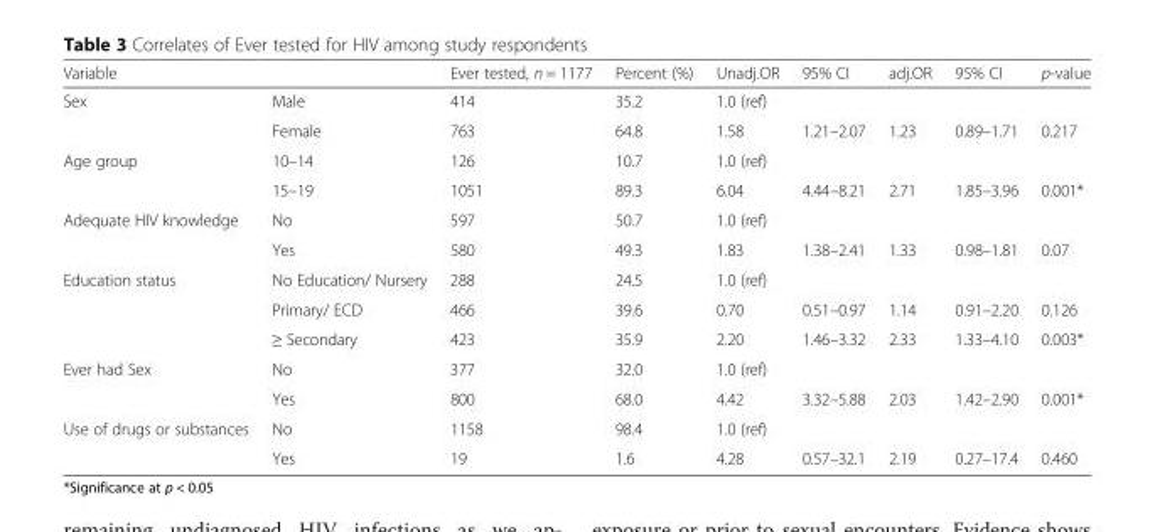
<table><thead><tr><td colspan="2">Variable</td><td rowspan="2">Ever tested, n = 1177 414</td><td rowspan="2">Percent (%) 35.2</td><td rowspan="2">Unadj.OR 1.0 (ref)</td><td rowspan="2">95% CI</td><td rowspan="2">adj.OR</td><td rowspan="2">95% CI</td><td rowspan="2">p-value</td></tr><tr><td>Sex</td><td>Male</td></tr></thead><tbody><tr><td></td><td>Female</td><td>763</td><td>64.8</td><td>1.58</td><td>1.21–2.07</td><td>1.23</td><td>0.89–1.71</td><td>0.217</td></tr><tr><td rowspan="2">Age group</td><td>10–14</td><td>126</td><td>10.7</td><td>1.0 (ref)</td><td></td><td></td><td></td><td></td></tr><tr><td>15–19</td><td>1051</td><td>89.3</td><td>6.04</td><td>4.44–8.21</td><td>2.71</td><td>1.85–3.96</td><td>0.001*</td></tr><tr><td rowspan="2">Adequate HIV knowledge</td><td>No</td><td>597</td><td>50.7</td><td>1.0 (ref)</td><td></td><td></td><td></td><td></td></tr><tr><td>Yes</td><td>580</td><td>49.3</td><td>1.83</td><td>1.38–2.41</td><td>1.33</td><td>0.98–1.81</td><td>0.07</td></tr><tr><td rowspan="3">Education status</td><td>No Education/ Nursery</td><td>288</td><td>24.5</td><td>1.0 (ref)</td><td></td><td></td><td></td><td></td></tr><tr><td>Primary/ ECD</td><td>466</td><td>39.6</td><td>0.70</td><td>0.51–0.97</td><td>1.14</td><td>0.91–2.20</td><td>0.126</td></tr><tr><td>≥ Secondary</td><td>423</td><td>35.9</td><td>2.20</td><td>1.46–3.32</td><td>2.33</td><td>1.33–4.10</td><td>0.003*</td></tr><tr><td rowspan="2">Ever had Sex</td><td>No</td><td>377</td><td>32.0</td><td>1.0 (ref)</td><td></td><td></td><td></td><td></td></tr><tr><td>Yes</td><td>800</td><td>68.0</td><td>4.42</td><td>3.32–5.88</td><td>2.03</td><td>1.42–2.90</td><td>0.001*</td></tr><tr><td rowspan="2">Use of drugs or substances</td><td>No</td><td>1158</td><td>98.4</td><td>1.0 (ref)</td><td></td><td></td><td></td><td></td></tr><tr><td>Yes</td><td>19</td><td>1.6</td><td>4.28</td><td>0.57–32.1</td><td>2.19</td><td>0.27–17.4</td><td>0.460</td></tr></tbody></table>